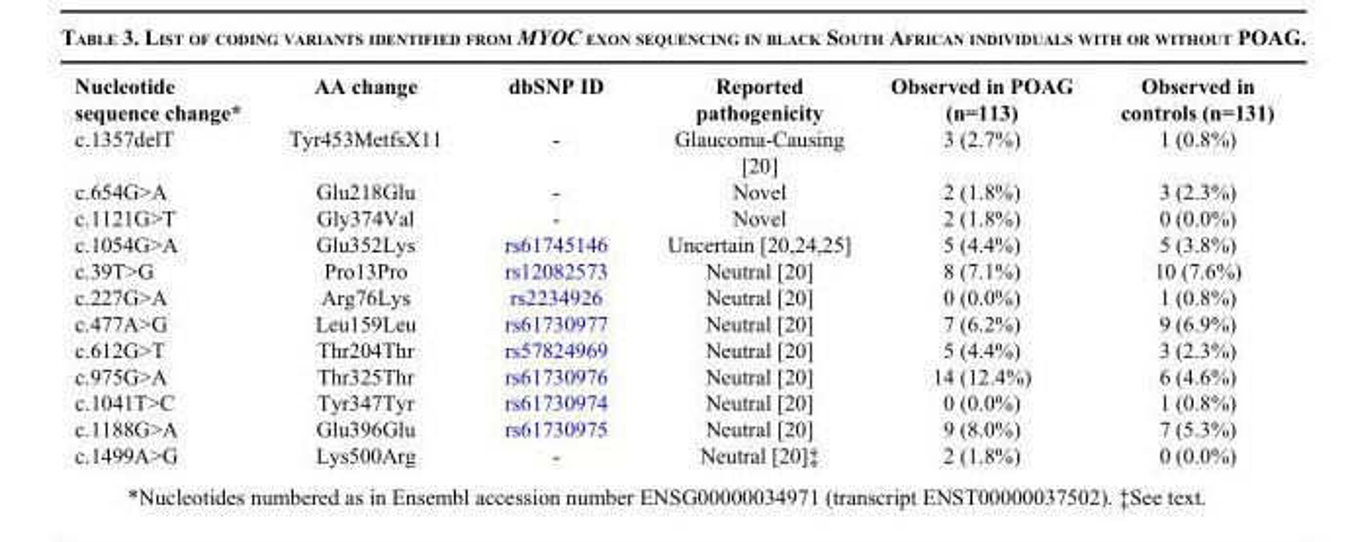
<table><thead><tr><td>Nucleotide sequence change*</td><td>AA change</td><td>dbSNP ID</td><td>Reported pathogenicity</td><td>Observed in POAG (n=113)</td><td>Observed in controls (n=131)</td></tr></thead><tbody><tr><td>c.1357delT</td><td>Tyr453MetfsX11</td><td>-</td><td>Glaucoma-Causing [20]</td><td>3 (2.7%)</td><td>1 (0.8%)</td></tr><tr><td>c.654G&gt;A</td><td>Glu218Glu</td><td>-</td><td>Novel</td><td>2 (1.8%)</td><td>3 (2.3%)</td></tr><tr><td>c.1121G&gt;T</td><td>Gly374Val</td><td>-</td><td>Novel</td><td>2 (1.8%)</td><td>0 (0.0%)</td></tr><tr><td>c.1054G&gt;A</td><td>Glu352Lys</td><td>rs61745146</td><td>Uncertain [20,24,25]</td><td>5 (4.4%)</td><td>5 (3.8%)</td></tr><tr><td>c.39T&gt;G</td><td>Pro13Pro</td><td>rs12082573</td><td>Neutral [20]</td><td>8 (7.1%)</td><td>10 (7.6%)</td></tr><tr><td>c.227G&gt;A</td><td>Arg76Lys</td><td>rs2234926</td><td>Neutral [20]</td><td>0 (0.0%)</td><td>1 (0.8%)</td></tr><tr><td>c.477A&gt;G</td><td>Leu159Leu</td><td>rs61730977</td><td>Neutral [20]</td><td>7 (6.2%)</td><td>9 (6.9%)</td></tr><tr><td>c.612G&gt;T</td><td>Thr204Thr</td><td>rs57824969</td><td>Neutral [20]</td><td>5 (4.4%)</td><td>3 (2.3%)</td></tr><tr><td>c.975G&gt;A</td><td>Thr325Thr</td><td>rs61730976</td><td>Neutral [20]</td><td>14 (12.4%)</td><td>6 (4.6%)</td></tr><tr><td>c.1041T&gt;C</td><td>Tyr347Tyr</td><td>rs61730974</td><td>Neutral [20]</td><td>0 (0.0%)</td><td>1 (0.8%)</td></tr><tr><td>c.1188G&gt;A</td><td>Glu396Glu</td><td>rs61730975</td><td>Neutral [20]</td><td>9 (8.0%)</td><td>7 (5.3%)</td></tr><tr><td>c.1499A&gt;G</td><td>Lys500Arg</td><td>-</td><td>Neutral [20]‡</td><td>2 (1.8%)</td><td>0 (0.0%)</td></tr></tbody></table>